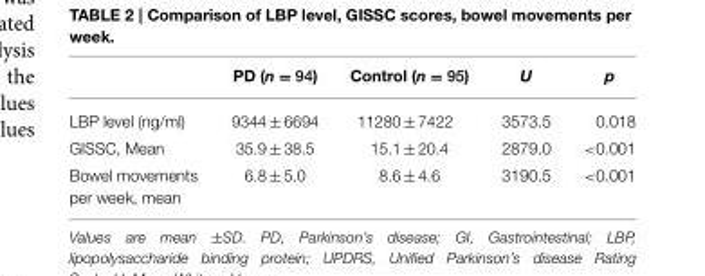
<table><thead><tr><td></td><td>PD (n = 94)</td><td>Control (n = 95)</td><td>U</td><td>p</td></tr></thead><tbody><tr><td>LBP level (ng/ml)</td><td>9344 ± 6694</td><td>11280 ± 7422</td><td>3573.5</td><td>0.018</td></tr><tr><td>GISSC, Mean</td><td>35.9 ± 38.5</td><td>15.1 ± 20.4</td><td>2879.0</td><td>&lt;0.001</td></tr><tr><td>Bowel movements per week, mean</td><td>6.8 ± 5.0</td><td>8.6 ± 4.6</td><td>3190.5</td><td>&lt;0.001</td></tr></tbody></table>